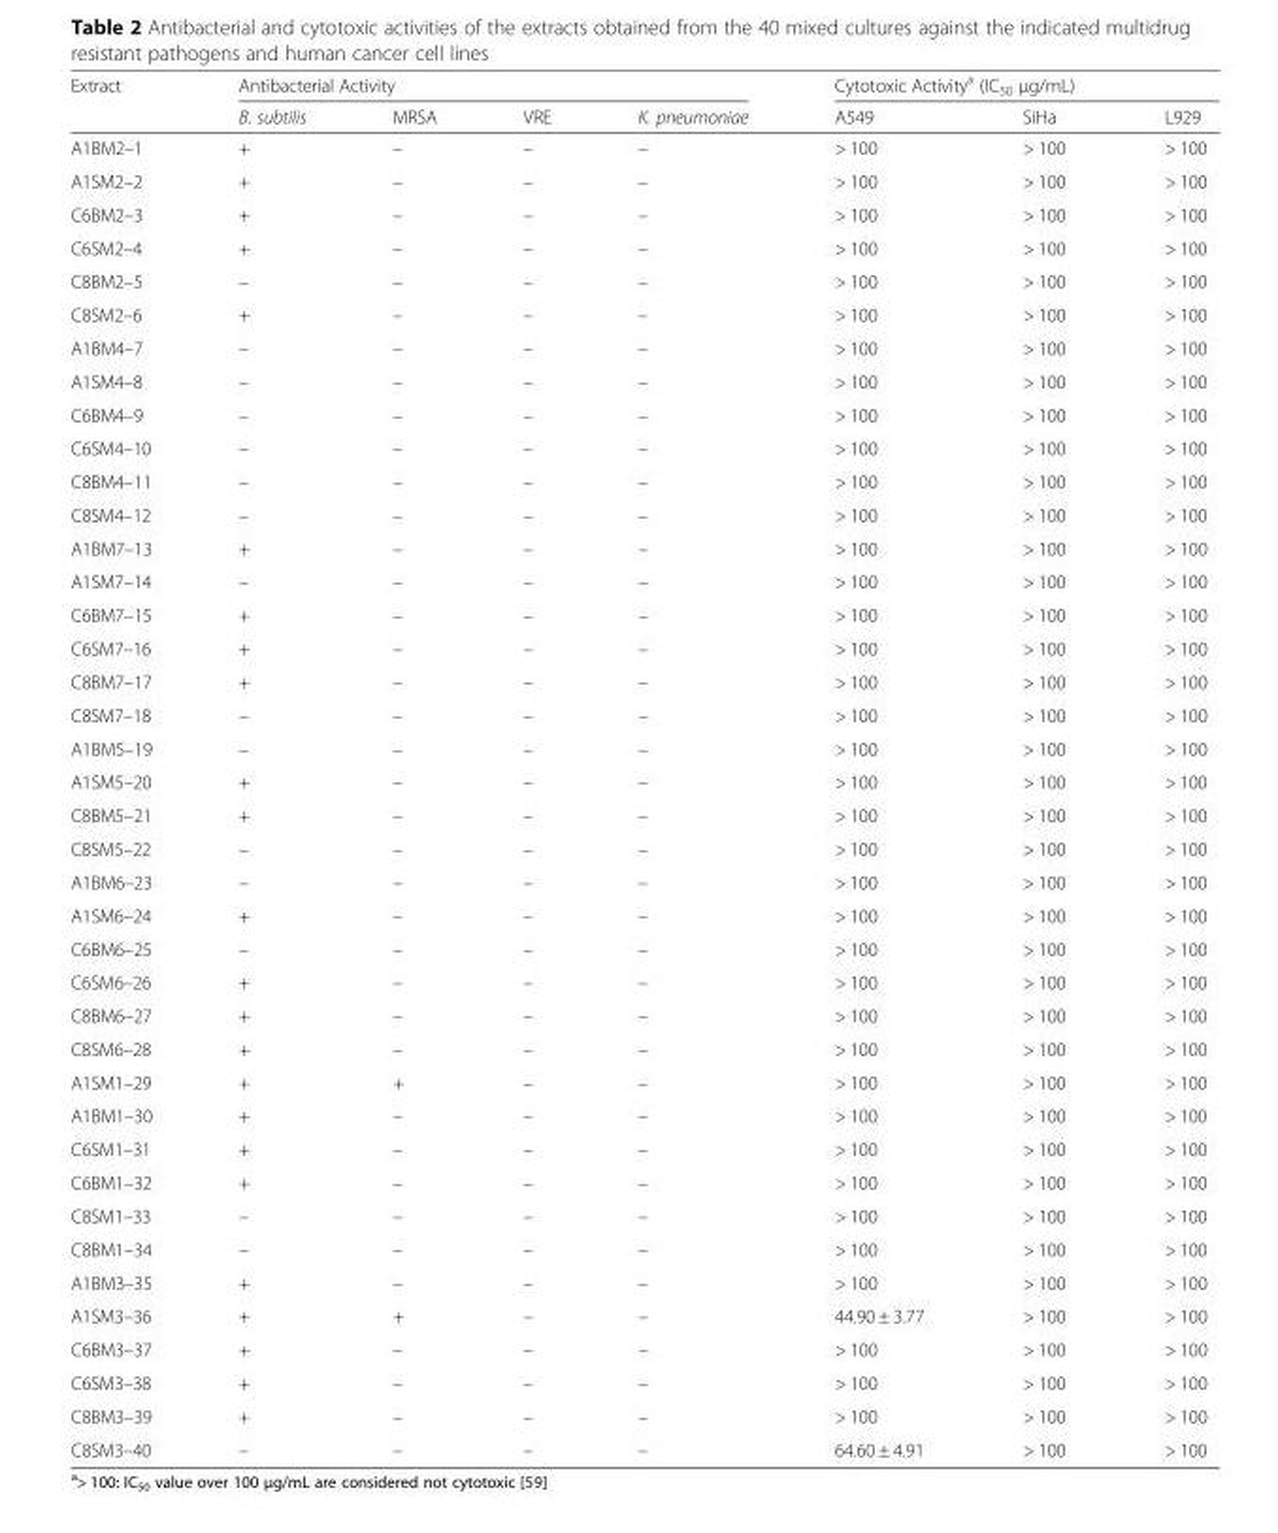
<table><thead><tr><td rowspan="2">Extract</td><td colspan="4">Antibacterial Activity</td><td colspan="3">Cytotoxic Activity<sup>a</sup> (IC<sub>50</sub> μg/mL)</td></tr><tr><td>B. subtilis</td><td>MRSA</td><td>VRE</td><td>K. pneumoniae</td><td>A549</td><td>SiHa</td><td>L929</td></tr></thead><tbody><tr><td>A1BM2–1</td><td>+</td><td>–</td><td>–</td><td>–</td><td>&gt; 100</td><td>&gt; 100</td><td>&gt; 100</td></tr><tr><td>A1SM2–2</td><td>+</td><td>–</td><td>–</td><td>–</td><td>&gt; 100</td><td>&gt; 100</td><td>&gt; 100</td></tr><tr><td>C6BM2–3</td><td>+</td><td>–</td><td>–</td><td>–</td><td>&gt; 100</td><td>&gt; 100</td><td>&gt; 100</td></tr><tr><td>C6SM2–4</td><td>+</td><td>–</td><td>–</td><td>–</td><td>&gt; 100</td><td>&gt; 100</td><td>&gt; 100</td></tr><tr><td>C8BM2–5</td><td>–</td><td>–</td><td>–</td><td>–</td><td>&gt; 100</td><td>&gt; 100</td><td>&gt; 100</td></tr><tr><td>C8SM2–6</td><td>+</td><td>–</td><td>–</td><td>–</td><td>&gt; 100</td><td>&gt; 100</td><td>&gt; 100</td></tr><tr><td>A1BM4–7</td><td>–</td><td>–</td><td>–</td><td>–</td><td>&gt; 100</td><td>&gt; 100</td><td>&gt; 100</td></tr><tr><td>A1SM4–8</td><td>–</td><td>–</td><td>–</td><td>–</td><td>&gt; 100</td><td>&gt; 100</td><td>&gt; 100</td></tr><tr><td>C6BM4–9</td><td>–</td><td>–</td><td>–</td><td>–</td><td>&gt; 100</td><td>&gt; 100</td><td>&gt; 100</td></tr><tr><td>C6SM4–10</td><td>–</td><td>–</td><td>–</td><td>–</td><td>&gt; 100</td><td>&gt; 100</td><td>&gt; 100</td></tr><tr><td>C8BM4–11</td><td>–</td><td>–</td><td>–</td><td>–</td><td>&gt; 100</td><td>&gt; 100</td><td>&gt; 100</td></tr><tr><td>C8SM4–12</td><td>–</td><td>–</td><td>–</td><td>–</td><td>&gt; 100</td><td>&gt; 100</td><td>&gt; 100</td></tr><tr><td>A1BM7–13</td><td>+</td><td>–</td><td>–</td><td>–</td><td>&gt; 100</td><td>&gt; 100</td><td>&gt; 100</td></tr><tr><td>A1SM7–14</td><td>–</td><td>–</td><td>–</td><td>–</td><td>&gt; 100</td><td>&gt; 100</td><td>&gt; 100</td></tr><tr><td>C6BM7–15</td><td>+</td><td>–</td><td>–</td><td>–</td><td>&gt; 100</td><td>&gt; 100</td><td>&gt; 100</td></tr><tr><td>C6SM7–16</td><td>+</td><td>–</td><td>–</td><td>–</td><td>&gt; 100</td><td>&gt; 100</td><td>&gt; 100</td></tr><tr><td>C8BM7–17</td><td>+</td><td>–</td><td>–</td><td>–</td><td>&gt; 100</td><td>&gt; 100</td><td>&gt; 100</td></tr><tr><td>C8SM7–18</td><td>–</td><td>–</td><td>–</td><td>–</td><td>&gt; 100</td><td>&gt; 100</td><td>&gt; 100</td></tr><tr><td>A1BM5–19</td><td>–</td><td>–</td><td>–</td><td>–</td><td>&gt; 100</td><td>&gt; 100</td><td>&gt; 100</td></tr><tr><td>A1SM5–20</td><td>+</td><td>–</td><td>–</td><td>–</td><td>&gt; 100</td><td>&gt; 100</td><td>&gt; 100</td></tr><tr><td>C8BM5–21</td><td>+</td><td>–</td><td>–</td><td>–</td><td>&gt; 100</td><td>&gt; 100</td><td>&gt; 100</td></tr><tr><td>C8SM5–22</td><td>–</td><td>–</td><td>–</td><td>–</td><td>&gt; 100</td><td>&gt; 100</td><td>&gt; 100</td></tr><tr><td>A1BM6–23</td><td>–</td><td>–</td><td>–</td><td>–</td><td>&gt; 100</td><td>&gt; 100</td><td>&gt; 100</td></tr><tr><td>A1SM6–24</td><td>+</td><td>–</td><td>–</td><td>–</td><td>&gt; 100</td><td>&gt; 100</td><td>&gt; 100</td></tr><tr><td>C6BM6–25</td><td>–</td><td>–</td><td>–</td><td>–</td><td>&gt; 100</td><td>&gt; 100</td><td>&gt; 100</td></tr><tr><td>C6SM6–26</td><td>+</td><td>–</td><td>–</td><td>–</td><td>&gt; 100</td><td>&gt; 100</td><td>&gt; 100</td></tr><tr><td>C8BM6–27</td><td>+</td><td>–</td><td>–</td><td>–</td><td>&gt; 100</td><td>&gt; 100</td><td>&gt; 100</td></tr><tr><td>C8SM6–28</td><td>+</td><td>–</td><td>–</td><td>–</td><td>&gt; 100</td><td>&gt; 100</td><td>&gt; 100</td></tr><tr><td>A1SM1–29</td><td>+</td><td>+</td><td>–</td><td>–</td><td>&gt; 100</td><td>&gt; 100</td><td>&gt; 100</td></tr><tr><td>A1BM1–30</td><td>+</td><td>–</td><td>–</td><td>–</td><td>&gt; 100</td><td>&gt; 100</td><td>&gt; 100</td></tr><tr><td>C6SM1–31</td><td>+</td><td>–</td><td>–</td><td>–</td><td>&gt; 100</td><td>&gt; 100</td><td>&gt; 100</td></tr><tr><td>C6BM1–32</td><td>+</td><td>–</td><td>–</td><td>–</td><td>&gt; 100</td><td>&gt; 100</td><td>&gt; 100</td></tr><tr><td>C8SM1–33</td><td>–</td><td>–</td><td>–</td><td>–</td><td>&gt; 100</td><td>&gt; 100</td><td>&gt; 100</td></tr><tr><td>C8BM1–34</td><td>–</td><td>–</td><td>–</td><td>–</td><td>&gt; 100</td><td>&gt; 100</td><td>&gt; 100</td></tr><tr><td>A1BM3–35</td><td>+</td><td>–</td><td>–</td><td>–</td><td>&gt; 100</td><td>&gt; 100</td><td>&gt; 100</td></tr><tr><td>A1SM3–36</td><td>+</td><td>+</td><td>–</td><td>–</td><td>44.90 ± 3.77</td><td>&gt; 100</td><td>&gt; 100</td></tr><tr><td>C6BM3–37</td><td>+</td><td>–</td><td>–</td><td>–</td><td>&gt; 100</td><td>&gt; 100</td><td>&gt; 100</td></tr><tr><td>C6SM3–38</td><td>+</td><td>–</td><td>–</td><td>–</td><td>&gt; 100</td><td>&gt; 100</td><td>&gt; 100</td></tr><tr><td>C8BM3–39</td><td>+</td><td>–</td><td>–</td><td>–</td><td>&gt; 100</td><td>&gt; 100</td><td>&gt; 100</td></tr><tr><td>C8SM3–40</td><td>–</td><td>–</td><td>–</td><td>–</td><td>64.60 ± 4.91</td><td>&gt; 100</td><td>&gt; 100</td></tr></tbody></table>